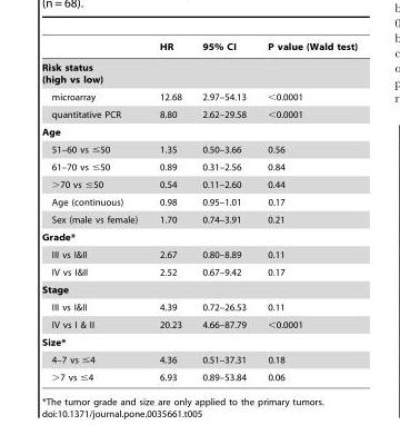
<table><thead><tr><td></td><td>HR</td><td>95% CI</td><td>P value (Wald test)</td></tr></thead><tbody><tr><td colspan="4">Risk status (high vs low)</td></tr><tr><td>microarray</td><td>12.68</td><td>2.97–54.13</td><td>&lt;0.0001</td></tr><tr><td>quantitative PCR</td><td>8.80</td><td>2.62–29.58</td><td>&lt;0.0001</td></tr><tr><td colspan="4">Age</td></tr><tr><td>51–60 vs ≤50</td><td>1.35</td><td>0.50–3.66</td><td>0.56</td></tr><tr><td>61–70 vs ≤50</td><td>0.89</td><td>0.31–2.56</td><td>0.84</td></tr><tr><td>&gt;70 vs ≤50</td><td>0.54</td><td>0.11–2.60</td><td>0.44</td></tr><tr><td>Age (continuous)</td><td>0.98</td><td>0.95–1.01</td><td>0.17</td></tr><tr><td>Sex (male vs female)</td><td>1.70</td><td>0.74–3.91</td><td>0.21</td></tr><tr><td colspan="4">Grade*</td></tr><tr><td>III vs I&amp;II</td><td>2.67</td><td>0.80–8.89</td><td>0.11</td></tr><tr><td>IV vs I&amp;II</td><td>2.52</td><td>0.67–9.42</td><td>0.17</td></tr><tr><td colspan="4">Stage</td></tr><tr><td>III vs I&amp;II</td><td>4.39</td><td>0.72–26.53</td><td>0.11</td></tr><tr><td>IV vs I &amp; II</td><td>20.23</td><td>4.66–87.79</td><td>&lt;0.0001</td></tr><tr><td colspan="4">Size*</td></tr><tr><td>4–7 vs ≤4</td><td>4.36</td><td>0.51–37.31</td><td>0.18</td></tr><tr><td>&gt;7 vs ≤4</td><td>6.93</td><td>0.89–53.84</td><td>0.06</td></tr></tbody></table>